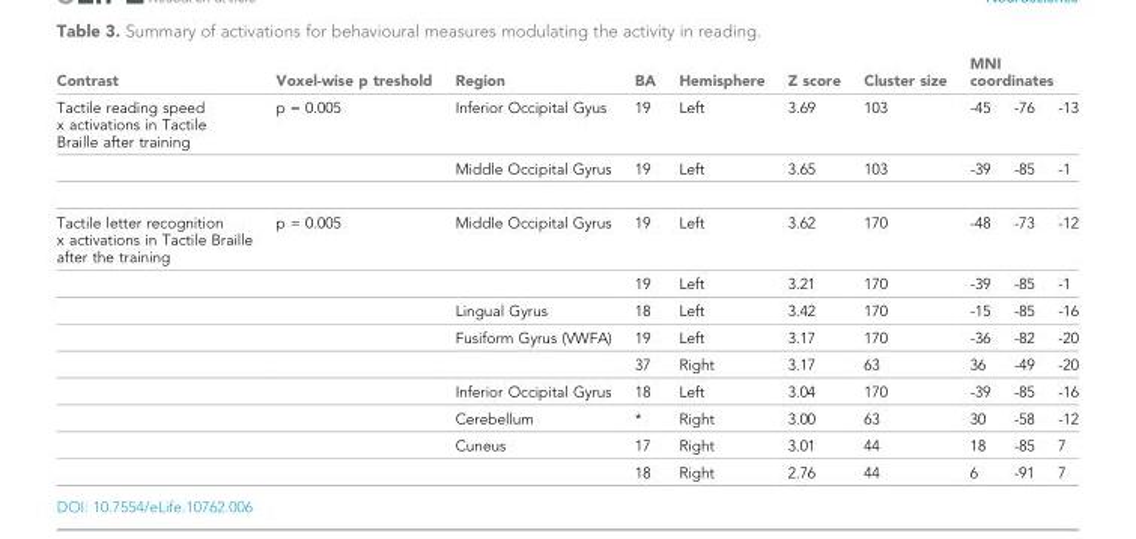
<table><thead><tr><td rowspan="2">Contrast Tactile reading speed x activations in Tactile Braille after training</td><td rowspan="2">Voxel-wise p treshold p = 0.005</td><td rowspan="2">Region Inferior Occipital Gyus</td><td rowspan="2">BA 19</td><td rowspan="2">Hemisphere Left</td><td rowspan="2">Z score 3.69</td><td rowspan="2">Cluster size 103</td><td colspan="3">MNI coordinates</td></tr><tr><td>-45</td><td>-76</td><td>-13</td></tr></thead><tbody><tr><td></td><td></td><td>Middle Occipital Gyrus</td><td>19</td><td>Left</td><td>3.65</td><td>103</td><td>-39</td><td>-85</td><td>-1</td></tr><tr><td rowspan="9">Tactile letter recognition x activations in Tactile Braille after the training</td><td>p = 0.005</td><td>Middle Occipital Gyrus</td><td>19</td><td>Left</td><td>3.62</td><td>170</td><td>-48</td><td>-73</td><td>-12</td></tr><tr><td></td><td></td><td>19</td><td>Left</td><td>3.21</td><td>170</td><td>-39</td><td>-85</td><td>-1</td></tr><tr><td></td><td>Lingual Gyrus</td><td>18</td><td>Left</td><td>3.42</td><td>170</td><td>-15</td><td>-85</td><td>-16</td></tr><tr><td></td><td>Fusiform Gyrus (VWFA)</td><td>19</td><td>Left</td><td>3.17</td><td>170</td><td>-36</td><td>-82</td><td>-20</td></tr><tr><td></td><td></td><td>37</td><td>Right</td><td>3.17</td><td>63</td><td>36</td><td>-49</td><td>-20</td></tr><tr><td></td><td>Inferior Occipital Gyrus</td><td>18</td><td>Left</td><td>3.04</td><td>170</td><td>-39</td><td>-85</td><td>-16</td></tr><tr><td></td><td>Cerebellum</td><td>*</td><td>Right</td><td>3.00</td><td>63</td><td>30</td><td>-58</td><td>-12</td></tr><tr><td></td><td>Cuneus</td><td>17</td><td>Right</td><td>3.01</td><td>44</td><td>18</td><td>-85</td><td>7</td></tr><tr><td></td><td></td><td>18</td><td>Right</td><td>2.76</td><td>44</td><td>6</td><td>-91</td><td>7</td></tr></tbody></table>